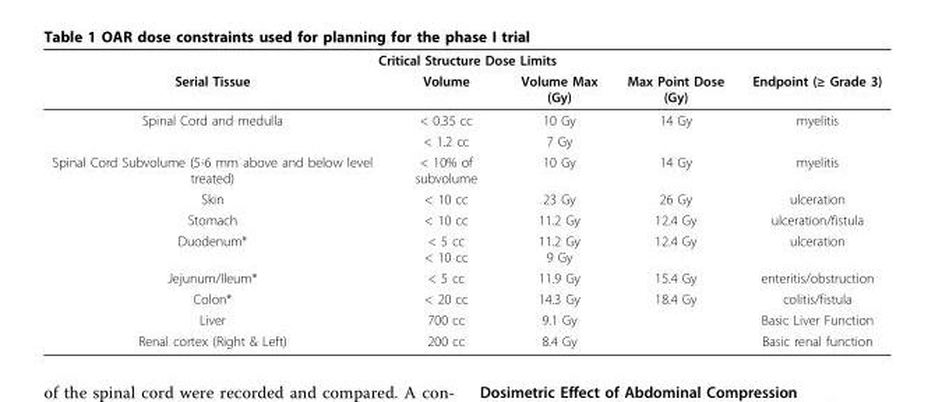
<table><thead><tr><td colspan="5">Critical Structure Dose Limits</td></tr><tr><td>Serial Tissue</td><td>Volume</td><td>Volume Max (Gy)</td><td>Max Point Dose (Gy)</td><td>Endpoint (≥ Grade 3)</td></tr></thead><tbody><tr><td rowspan="2">Spinal Cord and medulla</td><td>&lt; 0.35 cc</td><td>10 Gy</td><td>14 Gy</td><td>myelitis</td></tr><tr><td>&lt; 1.2 cc</td><td>7 Gy</td><td></td><td></td></tr><tr><td>Spinal Cord Subvolume (5-6 mm above and below level treated)</td><td>&lt; 10% of subvolume</td><td>10 Gy</td><td>14 Gy</td><td>myelitis</td></tr><tr><td>Skin</td><td>&lt; 10 cc</td><td>23 Gy</td><td>26 Gy</td><td>ulceration</td></tr><tr><td>Stomach</td><td>&lt; 10 cc</td><td>11.2 Gy</td><td>12.4 Gy</td><td>ulceration/fistula</td></tr><tr><td>Duodenum*</td><td>&lt; 5 cc &lt; 10 cc</td><td>11.2 Gy 9 Gy</td><td>12.4 Gy</td><td>ulceration</td></tr><tr><td>Jejunum/Ileum*</td><td>&lt; 5 cc</td><td>11.9 Gy</td><td>15.4 Gy</td><td>enteritis/obstruction</td></tr><tr><td>Colon*</td><td>&lt; 20 cc</td><td>14.3 Gy</td><td>18.4 Gy</td><td>colitis/fistula</td></tr><tr><td>Liver</td><td>700 cc</td><td>9.1 Gy</td><td></td><td>Basic Liver Function</td></tr><tr><td>Renal cortex (Right &amp; Left)</td><td>200 cc</td><td>8.4 Gy</td><td></td><td>Basic renal function</td></tr></tbody></table>